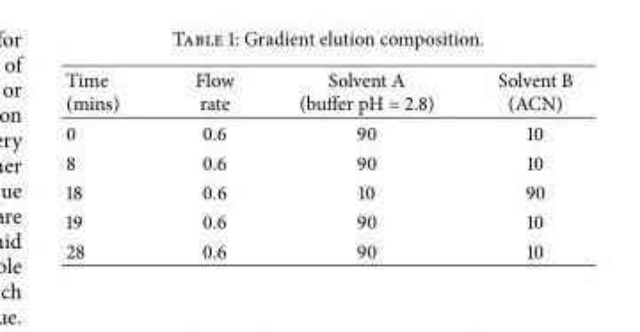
<table><thead><tr><td>Time (mins)</td><td>Flow rate</td><td>Solvent A (buffer pH = 2.8)</td><td>Solvent B (ACN)</td></tr></thead><tbody><tr><td>0</td><td>0.6</td><td>90</td><td>10</td></tr><tr><td>8</td><td>0.6</td><td>90</td><td>10</td></tr><tr><td>18</td><td>0.6</td><td>10</td><td>90</td></tr><tr><td>19</td><td>0.6</td><td>90</td><td>10</td></tr><tr><td>28</td><td>0.6</td><td>90</td><td>10</td></tr></tbody></table>